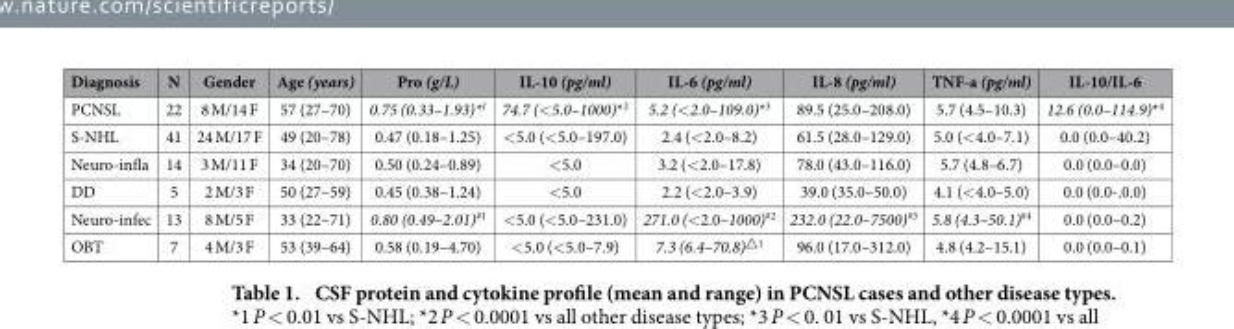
<table><thead><tr><td>Diagnosis</td><td>N</td><td>Gender</td><td>Age (years)</td><td>Pro (g/L)</td><td>IL-10 (pg/ml)</td><td>IL-6 (pg/ml)</td><td>IL-8 (pg/ml)</td><td>TNF-a (pg/ml)</td><td>IL-10/IL-6</td></tr></thead><tbody><tr><td>PCNSL</td><td>22</td><td>8 M/14 F</td><td>57 (27–70)</td><td>0.75 (0.33–1.93)*<sup>1</sup></td><td>74.7 (&lt; 5.0–1000)*<sup>2</sup></td><td>5.2 (&lt; 2.0–109.0)*<sup>3</sup></td><td>89.5 (25.0–208.0)</td><td>5.7 (4.5–10.3)</td><td>12.6 (0.0–114.9)*<sup>4</sup></td></tr><tr><td>S-NHL</td><td>41</td><td>24 M/17 F</td><td>49 (20–78)</td><td>0.47 (0.18–1.25)</td><td>&lt; 5.0 (&lt; 5.0–197.0)</td><td>2.4 (&lt; 2.0–8.2)</td><td>61.5 (28.0–129.0)</td><td>5.0 (&lt; 4.0–7.1)</td><td>0.0 (0.0–40.2)</td></tr><tr><td>Neuro-infla</td><td>14</td><td>3 M/11 F</td><td>34 (20–70)</td><td>0.50 (0.24–0.89)</td><td>&lt; 5.0</td><td>3.2 (&lt; 2.0–17.8)</td><td>78.0 (43.0–116.0)</td><td>5.7 (4.8–6.7)</td><td>0.0 (0.0–0.0)</td></tr><tr><td>DD</td><td>5</td><td>2 M/3 F</td><td>50 (27–59)</td><td>0.45 (0.38–1.24)</td><td>&lt; 5.0</td><td>2.2 (&lt; 2.0–3.9)</td><td>39.0 (35.0–50.0)</td><td>4.1 (&lt; 4.0–5.0)</td><td>0.0 (0.0-.0.0)</td></tr><tr><td>Neuro-infec</td><td>13</td><td>8 M/5 F</td><td>33 (22–71)</td><td>0.80 (0.49–2.01)<sup>#1</sup></td><td>&lt; 5.0 (&lt; 5.0–231.0)</td><td>271.0 (&lt; 2.0–1000)<sup>#2</sup></td><td>232.0 (22.0–7500)<sup>#3</sup></td><td>5.8 (4.3–50.1)<sup>#4</sup></td><td>0.0 (0.0–0.2)</td></tr><tr><td>OBT</td><td>7</td><td>4 M/3 F</td><td>53 (39–64)</td><td>0.58 (0.19–4.70)</td><td>&lt; 5.0 (&lt; 5.0–7.9)</td><td>7.3 (6.4–70.8)<sup>△1</sup></td><td>96.0 (17.0–312.0)</td><td>4.8 (4.2–15.1)</td><td>0.0 (0.0–0.1)</td></tr></tbody></table>